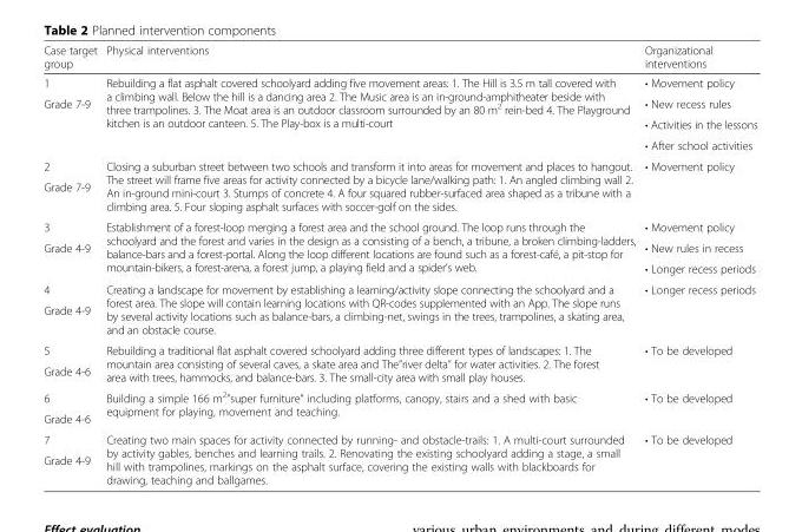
<table><thead><tr><td>Case target group</td><td>Physical interventions</td><td>Organizational interventions</td></tr></thead><tbody><tr><td>1</td><td rowspan="4">Rebuilding a flat asphalt covered schoolyard adding five movement areas: 1. The Hill is 3.5 m tall covered with a climbing wall. Below the hill is a dancing area 2. The Music area is an in-ground-amphitheater beside with three trampolines. 3. The Moat area is an outdoor classroom surrounded by an 80 m<sup>2</sup> rein-bed 4. The Playground kitchen is an outdoor canteen. 5. The Play-box is a multi-court</td><td>• Movement policy</td></tr><tr><td rowspan="3">Grade 7-9</td><td>• New recess rules</td></tr><tr><td>• Activities in the lessons</td></tr><tr><td>• After school activities</td></tr><tr><td>2</td><td rowspan="2">Closing a suburban street between two schools and transform it into areas for movement and places to hangout. The street will frame five areas for activity connected by a bicycle lane/walking path: 1. An angled climbing wall 2. An in-ground mini-court 3. Stumps of concrete 4. A four squared rubber-surfaced area shaped as a tribune with a climbing area. 5. Four sloping asphalt surfaces with soccer-golf on the sides.</td><td rowspan="2">• Movement policy</td></tr><tr><td>Grade 7-9</td></tr><tr><td>3</td><td rowspan="3">Establishment of a forest-loop merging a forest area and the school ground. The loop runs through the schoolyard and the forest and varies in the design as a consisting of a bench, a tribune, a broken climbing-ladders, balance-bars and a forest-portal. Along the loop different locations are found such as a forest-café, a pit-stop for mountain-bikers, a forest-arena, a forest jump, a playing field and a spider’s web.</td><td>• Movement policy</td></tr><tr><td rowspan="2">Grade 4-9</td><td>• New rules in recess</td></tr><tr><td>• Longer recess periods</td></tr><tr><td>4</td><td rowspan="2">Creating a landscape for movement by establishing a learning/activity slope connecting the schoolyard and a forest area. The slope will contain learning locations with QR-codes supplemented with an App. The slope runs by several activity locations such as balance-bars, a climbing-net, swings in the trees, trampolines, a skating area, and an obstacle course.</td><td rowspan="2">• Longer recess periods</td></tr><tr><td>Grade 4-9</td></tr><tr><td>5</td><td rowspan="2">Rebuilding a traditional flat asphalt covered schoolyard adding three different types of landscapes: 1. The mountain area consisting of several caves, a skate area and The”river delta” for water activities. 2. The forest area with trees, hammocks, and balance-bars. 3. The small-city area with small play houses.</td><td rowspan="2">• To be developed</td></tr><tr><td>Grade 4-6</td></tr><tr><td>6</td><td rowspan="2">Building a simple 166 m<sup>2</sup>”super furniture” including platforms, canopy, stairs and a shed with basic equipment for playing, movement and teaching.</td><td rowspan="2">• To be developed</td></tr><tr><td>Grade 4-6</td></tr><tr><td>7</td><td rowspan="2">Creating two main spaces for activity connected by running- and obstacle-trails: 1. A multi-court surrounded by activity gables, benches and learning trails. 2. Renovating the existing schoolyard adding a stage, a small hill with trampolines, markings on the asphalt surface, covering the existing walls with blackboards for drawing, teaching and ballgames.</td><td rowspan="2">• To be developed</td></tr><tr><td>Grade 4-9</td></tr></tbody></table>